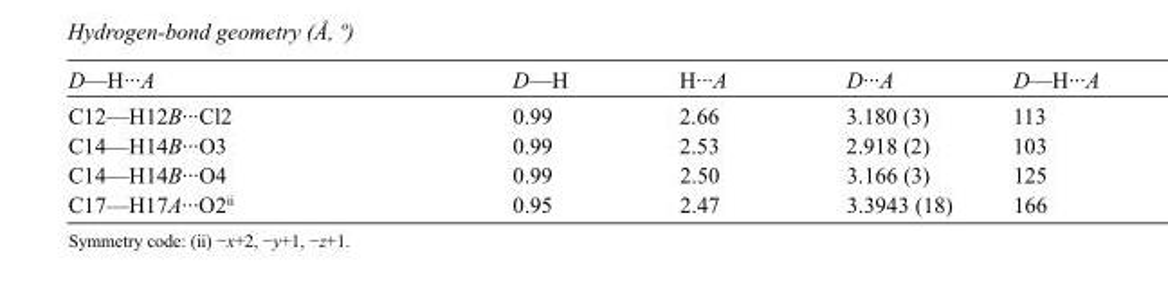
<table><tbody><tr><td>D—H···A</td><td>D—H</td><td>H···A</td><td>D···A</td><td>D—H···A</td></tr><tr><td>C12—H12B···Cl2</td><td>0.99</td><td>2.66</td><td>3.180 (3)</td><td>113</td></tr><tr><td>C14—H14B···O3</td><td>0.99</td><td>2.53</td><td>2.918 (2)</td><td>103</td></tr><tr><td>C14—H14B···O4</td><td>0.99</td><td>2.50</td><td>3.166 (3)</td><td>125</td></tr><tr><td>C17—H17A···O2<sup>ii</sup></td><td>0.95</td><td>2.47</td><td>3.3943 (18)</td><td>166</td></tr></tbody></table>